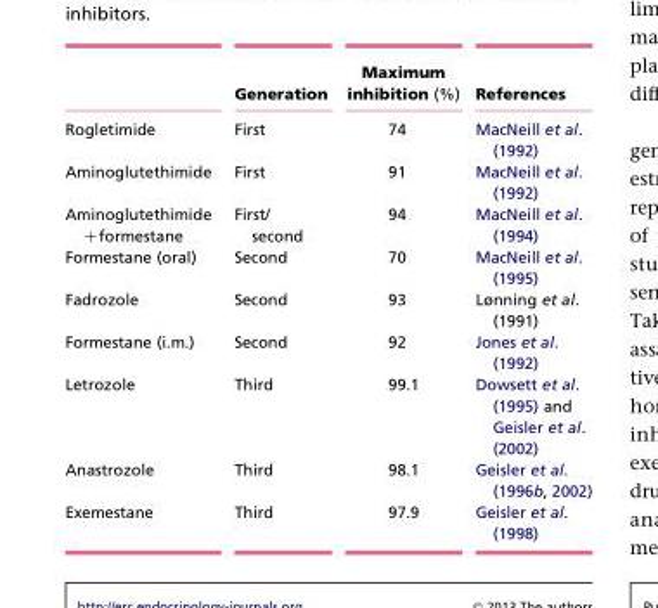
<table><thead><tr><td></td><td>Generation</td><td>Maximum inhibition (%)</td><td>References</td></tr></thead><tbody><tr><td>Rogletimide</td><td>First</td><td>74</td><td>MacNeill et al. (1992)</td></tr><tr><td>Aminoglutethimide</td><td>First</td><td>91</td><td>MacNeill et al. (1992)</td></tr><tr><td>Aminoglutethimide +formestane</td><td>First/ second</td><td>94</td><td>MacNeill et al. (1994)</td></tr><tr><td>Formestane (oral)</td><td>Second</td><td>70</td><td>MacNeill et al. (1995)</td></tr><tr><td>Fadrozole</td><td>Second</td><td>93</td><td>Lønning et al. (1991)</td></tr><tr><td>Formestane (i.m.)</td><td>Second</td><td>92</td><td>Jones et al. (1992)</td></tr><tr><td>Letrozole</td><td>Third</td><td>99.1</td><td>Dowsett et al. (1995) and Geisler et al. (2002)</td></tr><tr><td>Anastrozole</td><td>Third</td><td>98.1</td><td>Geisler et al. (1996b, 2002)</td></tr><tr><td>Exemestane</td><td>Third</td><td>97.9</td><td>Geisler et al. (1998)</td></tr></tbody></table>